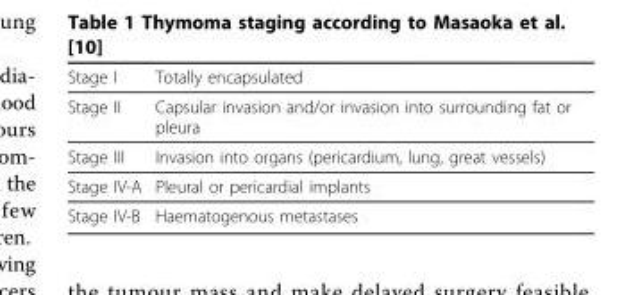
<table><thead><tr><td>Stage I</td><td>Totally encapsulated</td></tr></thead><tbody><tr><td>Stage II</td><td>Capsular invasion and/or invasion into surrounding fat or pleura</td></tr><tr><td>Stage III</td><td>Invasion into organs (pericardium, lung, great vessels)</td></tr><tr><td>Stage IV-A</td><td>Pleural or pericardial implants</td></tr><tr><td>Stage IV-B</td><td>Haematogenous metastases</td></tr></tbody></table>